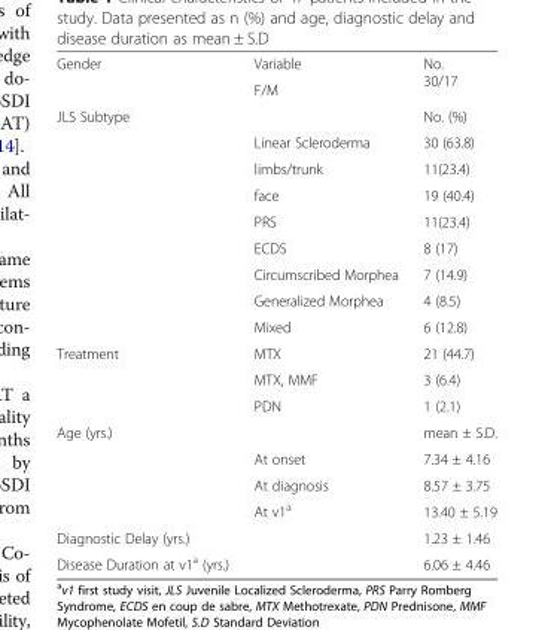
<table><tbody><tr><td rowspan="2">Gender</td><td>Variable</td><td rowspan="2">No. 30/17</td></tr><tr><td>F/M</td></tr><tr><td rowspan="9">JLS Subtype</td><td></td><td>No. (%)</td></tr><tr><td>Linear Scleroderma</td><td>30 (63.8)</td></tr><tr><td>limbs/trunk</td><td>11(23.4)</td></tr><tr><td>face</td><td>19 (40.4)</td></tr><tr><td>PRS</td><td>11(23.4)</td></tr><tr><td>ECDS</td><td>8 (17)</td></tr><tr><td>Circumscribed Morphea</td><td>7 (14.9)</td></tr><tr><td>Generalized Morphea</td><td>4 (8.5)</td></tr><tr><td>Mixed</td><td>6 (12.8)</td></tr><tr><td rowspan="3">Treatment</td><td>MTX</td><td>21 (44.7)</td></tr><tr><td>MTX, MMF</td><td>3 (6.4)</td></tr><tr><td>PDN</td><td>1 (2.1)</td></tr><tr><td rowspan="4">Age (yrs.)</td><td></td><td>mean ± S.D.</td></tr><tr><td>At onset</td><td>7.34 ± 4.16</td></tr><tr><td>At diagnosis</td><td>8.57 ± 3.75</td></tr><tr><td>At v1<sup>a</sup></td><td>13.40 ± 5.19</td></tr><tr><td>Diagnostic Delay (yrs.)</td><td></td><td>1.23 ± 1.46</td></tr><tr><td>Disease Duration at v1<sup>a</sup> (yrs.)</td><td></td><td>6.06 ± 4.46</td></tr></tbody></table>